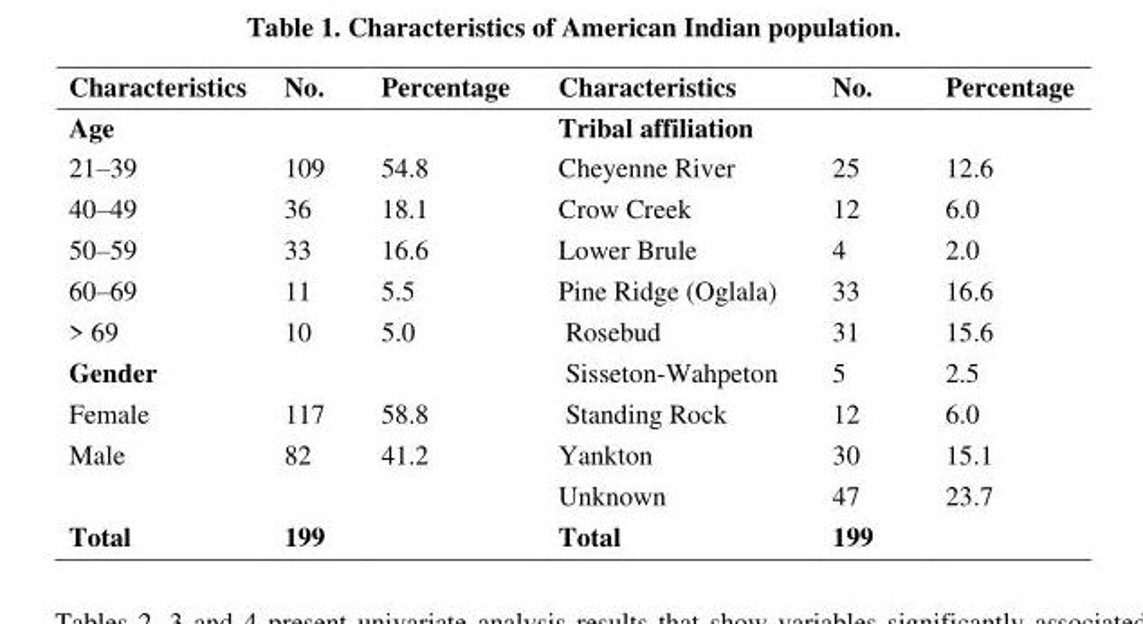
<table><thead><tr><td>Characteristics</td><td>No.</td><td>Percentage</td><td>Characteristics</td><td>No.</td><td>Percentage</td></tr></thead><tbody><tr><td>Age</td><td></td><td></td><td>Tribal affiliation</td><td></td><td></td></tr><tr><td>21–39</td><td>109</td><td>54.8</td><td>Cheyenne River</td><td>25</td><td>12.6</td></tr><tr><td>40–49</td><td>36</td><td>18.1</td><td>Crow Creek</td><td>12</td><td>6.0</td></tr><tr><td>50–59</td><td>33</td><td>16.6</td><td>Lower Brule</td><td>4</td><td>2.0</td></tr><tr><td>60–69</td><td>11</td><td>5.5</td><td>Pine Ridge (Oglala)</td><td>33</td><td>16.6</td></tr><tr><td>&gt; 69</td><td>10</td><td>5.0</td><td>Rosebud</td><td>31</td><td>15.6</td></tr><tr><td>Gender</td><td></td><td></td><td>Sisseton-Wahpeton</td><td>5</td><td>2.5</td></tr><tr><td>Female</td><td>117</td><td>58.8</td><td>Standing Rock</td><td>12</td><td>6.0</td></tr><tr><td rowspan="2">Male</td><td>82</td><td>41.2</td><td>Yankton</td><td>30</td><td>15.1</td></tr><tr><td></td><td></td><td>Unknown</td><td>47</td><td>23.7</td></tr><tr><td>Total</td><td>199</td><td></td><td>Total</td><td>199</td><td></td></tr></tbody></table>